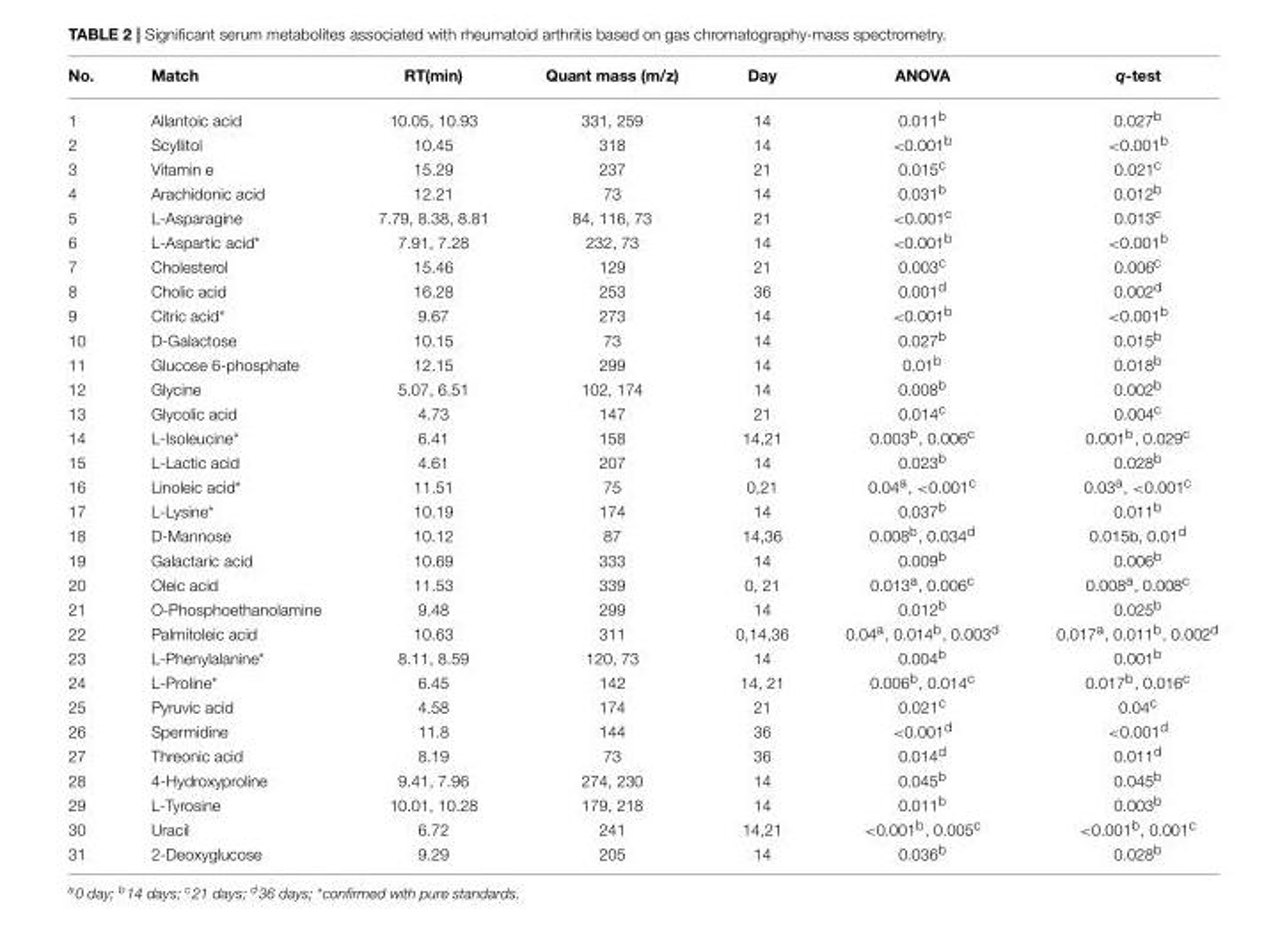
<table><thead><tr><td>No.</td><td>Match</td><td>RT(min)</td><td>Quant mass (m/z)</td><td>Day</td><td>ANOVA</td><td>q-test</td></tr></thead><tbody><tr><td>1</td><td>Allantoic acid</td><td>10.05, 10.93</td><td>331, 259</td><td>14</td><td>0.011<sup>b</sup></td><td>0.027<sup>b</sup></td></tr><tr><td>2</td><td>Scyllitol</td><td>10.45</td><td>318</td><td>14</td><td>&lt;0.001<sup>b</sup></td><td>&lt;0.001<sup>b</sup></td></tr><tr><td>3</td><td>Vitamin e</td><td>15.29</td><td>237</td><td>21</td><td>0.015<sup>c</sup></td><td>0.021<sup>c</sup></td></tr><tr><td>4</td><td>Arachidonic acid</td><td>12.21</td><td>73</td><td>14</td><td>0.031<sup>b</sup></td><td>0.012<sup>b</sup></td></tr><tr><td>5</td><td>L-Asparagine</td><td>7.79, 8.38, 8.81</td><td>84, 116, 73</td><td>21</td><td>&lt;0.001<sup>c</sup></td><td>0.013<sup>c</sup></td></tr><tr><td>6</td><td>L-Aspartic acid*</td><td>7.91, 7.28</td><td>232, 73</td><td>14</td><td>&lt;0.001<sup>b</sup></td><td>&lt;0.001<sup>b</sup></td></tr><tr><td>7</td><td>Cholesterol</td><td>15.46</td><td>129</td><td>21</td><td>0.003<sup>c</sup></td><td>0.006<sup>c</sup></td></tr><tr><td>8</td><td>Cholic acid</td><td>16.28</td><td>253</td><td>36</td><td>0.001<sup>d</sup></td><td>0.002<sup>d</sup></td></tr><tr><td>9</td><td>Citric acid*</td><td>9.67</td><td>273</td><td>14</td><td>&lt;0.001<sup>b</sup></td><td>&lt;0.001<sup>b</sup></td></tr><tr><td>10</td><td>D-Galactose</td><td>10.15</td><td>73</td><td>14</td><td>0.027<sup>b</sup></td><td>0.015<sup>b</sup></td></tr><tr><td>11</td><td>Glucose 6-phosphate</td><td>12.15</td><td>299</td><td>14</td><td>0.01<sup>b</sup></td><td>0.018<sup>b</sup></td></tr><tr><td>12</td><td>Glycine</td><td>5.07, 6.51</td><td>102, 174</td><td>14</td><td>0.008<sup>b</sup></td><td>0.002<sup>b</sup></td></tr><tr><td>13</td><td>Glycolic acid</td><td>4.73</td><td>147</td><td>21</td><td>0.014<sup>c</sup></td><td>0.004<sup>c</sup></td></tr><tr><td>14</td><td>L-Isoleucine*</td><td>6.41</td><td>158</td><td>14,21</td><td>0.003<sup>b</sup>, 0.006<sup>c</sup></td><td>0.001<sup>b</sup>, 0.029<sup>c</sup></td></tr><tr><td>15</td><td>L-Lactic acid</td><td>4.61</td><td>207</td><td>14</td><td>0.023<sup>b</sup></td><td>0.028<sup>b</sup></td></tr><tr><td>16</td><td>Linoleic acid*</td><td>11.51</td><td>75</td><td>0,21</td><td>0.04<sup>a</sup>, &lt;0.001<sup>c</sup></td><td>0.03<sup>a</sup>, &lt;0.001<sup>c</sup></td></tr><tr><td>17</td><td>L-Lysine*</td><td>10.19</td><td>174</td><td>14</td><td>0.037<sup>b</sup></td><td>0.011<sup>b</sup></td></tr><tr><td>18</td><td>D-Mannose</td><td>10.12</td><td>87</td><td>14,36</td><td>0.008<sup>b</sup>, 0.034<sup>d</sup></td><td>0.015b, 0.01<sup>d</sup></td></tr><tr><td>19</td><td>Galactaric acid</td><td>10.69</td><td>333</td><td>14</td><td>0.009<sup>b</sup></td><td>0.006<sup>b</sup></td></tr><tr><td>20</td><td>Oleic acid</td><td>11.53</td><td>339</td><td>0, 21</td><td>0.013<sup>a</sup>, 0.006<sup>c</sup></td><td>0.008<sup>a</sup>, 0.008<sup>c</sup></td></tr><tr><td>21</td><td>O-Phosphoethanolamine</td><td>9.48</td><td>299</td><td>14</td><td>0.012<sup>b</sup></td><td>0.025<sup>b</sup></td></tr><tr><td>22</td><td>Palmitoleic acid</td><td>10.63</td><td>311</td><td>0,14,36</td><td>0.04<sup>a</sup>, 0.014<sup>b</sup>, 0.003<sup>d</sup></td><td>0.017<sup>a</sup>, 0.011<sup>b</sup>, 0.002<sup>d</sup></td></tr><tr><td>23</td><td>L-Phenylalanine*</td><td>8.11, 8.59</td><td>120, 73</td><td>14</td><td>0.004<sup>b</sup></td><td>0.001<sup>b</sup></td></tr><tr><td>24</td><td>L-Proline*</td><td>6.45</td><td>142</td><td>14, 21</td><td>0.006<sup>b</sup>, 0.014<sup>c</sup></td><td>0.017<sup>b</sup>, 0.016<sup>c</sup></td></tr><tr><td>25</td><td>Pyruvic acid</td><td>4.58</td><td>174</td><td>21</td><td>0.021<sup>c</sup></td><td>0.04<sup>c</sup></td></tr><tr><td>26</td><td>Spermidine</td><td>11.8</td><td>144</td><td>36</td><td>&lt;0.001<sup>d</sup></td><td>&lt;0.001<sup>d</sup></td></tr><tr><td>27</td><td>Threonic acid</td><td>8.19</td><td>73</td><td>36</td><td>0.014<sup>d</sup></td><td>0.011<sup>d</sup></td></tr><tr><td>28</td><td>4-Hydroxyproline</td><td>9.41, 7.96</td><td>274, 230</td><td>14</td><td>0.045<sup>b</sup></td><td>0.045<sup>b</sup></td></tr><tr><td>29</td><td>L-Tyrosine</td><td>10.01, 10.28</td><td>179, 218</td><td>14</td><td>0.011<sup>b</sup></td><td>0.003<sup>b</sup></td></tr><tr><td>30</td><td>Uracil</td><td>6.72</td><td>241</td><td>14,21</td><td>&lt;0.001<sup>b</sup>, 0.005<sup>c</sup></td><td>&lt;0.001<sup>b</sup>, 0.001<sup>c</sup></td></tr><tr><td>31</td><td>2-Deoxyglucose</td><td>9.29</td><td>205</td><td>14</td><td>0.036<sup>b</sup></td><td>0.028<sup>b</sup></td></tr></tbody></table>